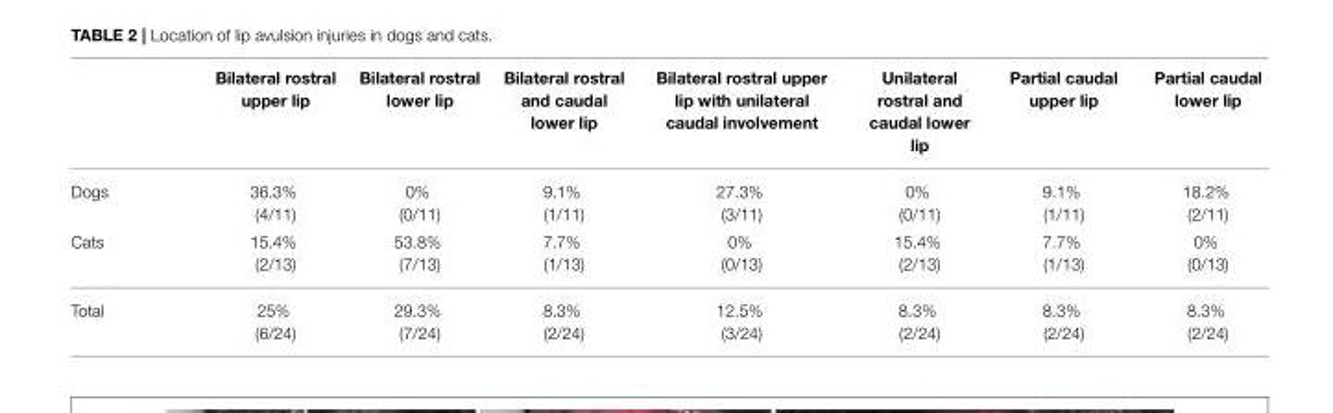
<table><thead><tr><td></td><td>Bilateral rostral upper lip</td><td>Bilateral rostral lower lip</td><td>Bilateral rostral and caudal lower lip</td><td>Bilateral rostral upper lip with unilateral caudal involvement</td><td>Unilateral rostral and caudal lower lip</td><td>Partial caudal upper lip</td><td>Partial caudal lower lip</td></tr></thead><tbody><tr><td>Dogs</td><td>36.3% (4/11)</td><td>0% (0/11)</td><td>9.1% (1/11)</td><td>27.3% (3/11)</td><td>0% (0/11)</td><td>9.1% (1/11)</td><td>18.2% (2/11)</td></tr><tr><td>Cats</td><td>15.4% (2/13)</td><td>53.8% (7/13)</td><td>7.7% (1/13)</td><td>0% (0/13)</td><td>15.4% (2/13)</td><td>7.7% (1/13)</td><td>0% (0/13)</td></tr><tr><td>Total</td><td>25% (6/24)</td><td>29.3% (7/24)</td><td>8.3% (2/24)</td><td>12.5% (3/24)</td><td>8.3% (2/24)</td><td>8.3% (2/24)</td><td>8.3% (2/24)</td></tr></tbody></table>